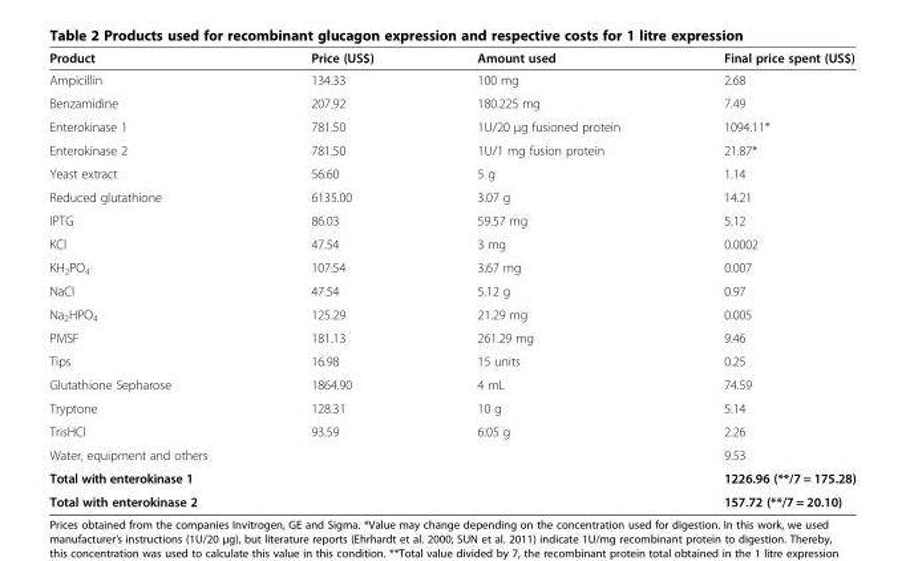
<table><thead><tr><td>Product</td><td>Price (US$)</td><td>Amount used</td><td>Final price spent (US$)</td></tr></thead><tbody><tr><td>Ampicillin</td><td>134.33</td><td>100 mg</td><td>2.68</td></tr><tr><td>Benzamidine</td><td>207.92</td><td>180.225 mg</td><td>7.49</td></tr><tr><td>Enterokinase 1</td><td>781.50</td><td>1U/20 μg fusioned protein</td><td>1094.11*</td></tr><tr><td>Enterokinase 2</td><td>781.50</td><td>1U/1 mg fusion protein</td><td>21.87*</td></tr><tr><td>Yeast extract</td><td>56.60</td><td>5 g</td><td>1.14</td></tr><tr><td>Reduced glutathione</td><td>6135.00</td><td>3.07 g</td><td>14.21</td></tr><tr><td>IPTG</td><td>86.03</td><td>59.57 mg</td><td>5.12</td></tr><tr><td>KCl</td><td>47.54</td><td>3 mg</td><td>0.0002</td></tr><tr><td>KH<sub>2</sub>PO<sub>4</sub></td><td>107.54</td><td>3.67 mg</td><td>0.007</td></tr><tr><td>NaCl</td><td>47.54</td><td>5.12 g</td><td>0.97</td></tr><tr><td>Na<sub>2</sub>HPO<sub>4</sub></td><td>125.29</td><td>21.29 mg</td><td>0.005</td></tr><tr><td>PMSF</td><td>181.13</td><td>261.29 mg</td><td>9.46</td></tr><tr><td>Tips</td><td>16.98</td><td>15 units</td><td>0.25</td></tr><tr><td>Glutathione Sepharose</td><td>1864.90</td><td>4 mL</td><td>74.59</td></tr><tr><td>Tryptone</td><td>128.31</td><td>10 g</td><td>5.14</td></tr><tr><td>TrisHCl</td><td>93.59</td><td>6.05 g</td><td>2.26</td></tr><tr><td>Water, equipment and others</td><td></td><td></td><td>9.53</td></tr><tr><td>Total with enterokinase 1</td><td></td><td></td><td>1226.96 (**/7 = 175.28)</td></tr><tr><td>Total with enterokinase 2</td><td></td><td></td><td>157.72 (**/7 = 20.10)</td></tr></tbody></table>